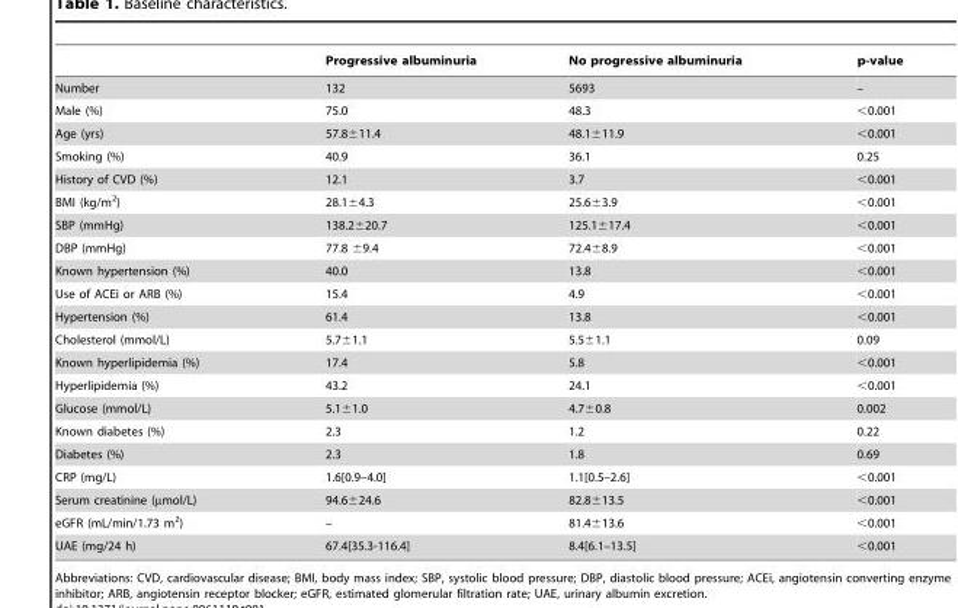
<table><thead><tr><td></td><td>Progressive albuminuria</td><td>No progressive albuminuria</td><td>p-value</td></tr></thead><tbody><tr><td>Number</td><td>132</td><td>5693</td><td>–</td></tr><tr><td>Male (%)</td><td>75.0</td><td>48.3</td><td>&lt;0.001</td></tr><tr><td>Age (yrs)</td><td>57.8±11.4</td><td>48.1±11.9</td><td>&lt;0.001</td></tr><tr><td>Smoking (%)</td><td>40.9</td><td>36.1</td><td>0.25</td></tr><tr><td>History of CVD (%)</td><td>12.1</td><td>3.7</td><td>&lt;0.001</td></tr><tr><td>BMI (kg/m<sup>2</sup>)</td><td>28.1±4.3</td><td>25.6±3.9</td><td>&lt;0.001</td></tr><tr><td>SBP (mmHg)</td><td>138.2±20.7</td><td>125.1±17.4</td><td>&lt;0.001</td></tr><tr><td>DBP (mmHg)</td><td>77.8 ±9.4</td><td>72.4±8.9</td><td>&lt;0.001</td></tr><tr><td>Known hypertension (%)</td><td>40.0</td><td>13.8</td><td>&lt;0.001</td></tr><tr><td>Use of ACEi or ARB (%)</td><td>15.4</td><td>4.9</td><td>&lt;0.001</td></tr><tr><td>Hypertension (%)</td><td>61.4</td><td>13.8</td><td>&lt;0.001</td></tr><tr><td>Cholesterol (mmol/L)</td><td>5.7±1.1</td><td>5.5±1.1</td><td>0.09</td></tr><tr><td>Known hyperlipidemia (%)</td><td>17.4</td><td>5.8</td><td>&lt;0.001</td></tr><tr><td>Hyperlipidemia (%)</td><td>43.2</td><td>24.1</td><td>&lt;0.001</td></tr><tr><td>Glucose (mmol/L)</td><td>5.1±1.0</td><td>4.7±0.8</td><td>0.002</td></tr><tr><td>Known diabetes (%)</td><td>2.3</td><td>1.2</td><td>0.22</td></tr><tr><td>Diabetes (%)</td><td>2.3</td><td>1.8</td><td>0.69</td></tr><tr><td>CRP (mg/L)</td><td>1.6[0.9–4.0]</td><td>1.1[0.5–2.6]</td><td>&lt;0.001</td></tr><tr><td>Serum creatinine (µmol/L)</td><td>94.6±24.6</td><td>82.8±13.5</td><td>&lt;0.001</td></tr><tr><td>eGFR (mL/min/1.73 m<sup>2</sup>)</td><td>–</td><td>81.4±13.6</td><td>&lt;0.001</td></tr><tr><td>UAE (mg/24 h)</td><td>67.4[35.3-116.4]</td><td>8.4[6.1–13.5]</td><td>&lt;0.001</td></tr></tbody></table>